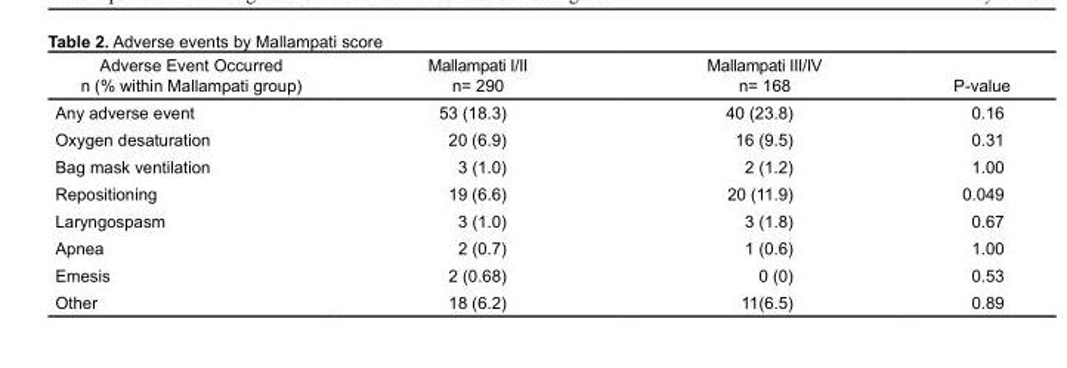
<table><thead><tr><td>Adverse Event Occurred n (% within Mallampati group)</td><td>Mallampati I/II n= 290</td><td>Mallampati III/IV n= 168</td><td>P-value</td></tr></thead><tbody><tr><td>Any adverse event</td><td>53 (18.3)</td><td>40 (23.8)</td><td>0.16</td></tr><tr><td>Oxygen desaturation</td><td>20 (6.9)</td><td>16 (9.5)</td><td>0.31</td></tr><tr><td>Bag mask ventilation</td><td>3 (1.0)</td><td>2 (1.2)</td><td>1.00</td></tr><tr><td>Repositioning</td><td>19 (6.6)</td><td>20 (11.9)</td><td>0.049</td></tr><tr><td>Laryngospasm</td><td>3 (1.0)</td><td>3 (1.8)</td><td>0.67</td></tr><tr><td>Apnea</td><td>2 (0.7)</td><td>1 (0.6)</td><td>1.00</td></tr><tr><td>Emesis</td><td>2 (0.68)</td><td>0 (0)</td><td>0.53</td></tr><tr><td>Other</td><td>18 (6.2)</td><td>11(6.5)</td><td>0.89</td></tr></tbody></table>